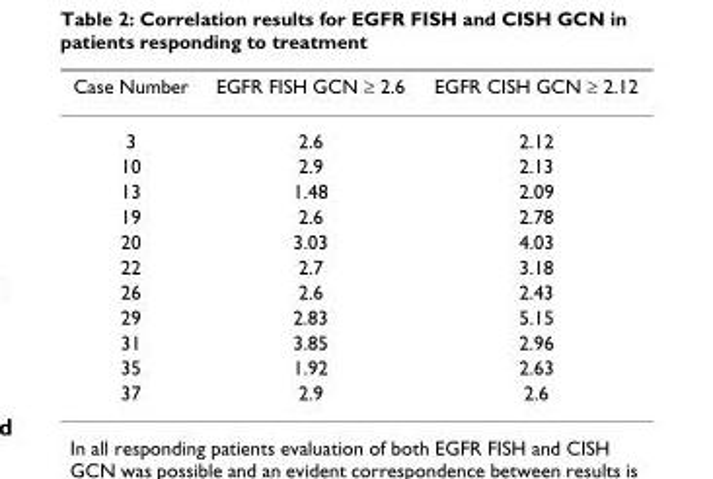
<table><thead><tr><td>Case Number</td><td>EGFR FISH GCN ≥ 2.6</td><td>EGFR CISH GCN ≥ 2.12</td></tr></thead><tbody><tr><td>3</td><td>2.6</td><td>2.12</td></tr><tr><td>10</td><td>2.9</td><td>2.13</td></tr><tr><td>13</td><td>1.48</td><td>2.09</td></tr><tr><td>19</td><td>2.6</td><td>2.78</td></tr><tr><td>20</td><td>3.03</td><td>4.03</td></tr><tr><td>22</td><td>2.7</td><td>3.18</td></tr><tr><td>26</td><td>2.6</td><td>2.43</td></tr><tr><td>29</td><td>2.83</td><td>5.15</td></tr><tr><td>31</td><td>3.85</td><td>2.96</td></tr><tr><td>35</td><td>1.92</td><td>2.63</td></tr><tr><td>37</td><td>2.9</td><td>2.6</td></tr></tbody></table>